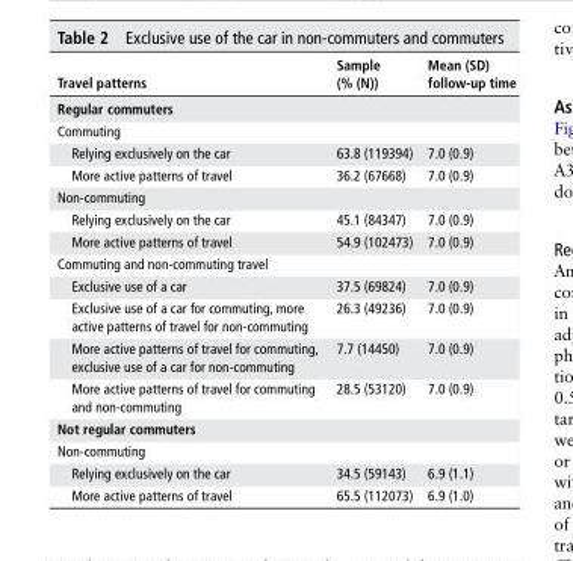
<table><thead><tr><td>Travel patterns</td><td>sample (% (n))</td><td>Mean (sd) follow-up time</td></tr></thead><tbody><tr><td colspan="3">regular commuters</td></tr><tr><td colspan="3">Commuting</td></tr><tr><td>Relying exclusively on the car</td><td>63.8 (119394)</td><td>7.0 (0.9)</td></tr><tr><td>More active patterns of travel</td><td>36.2 (67668)</td><td>7.0 (0.9)</td></tr><tr><td colspan="3">Non-commuting</td></tr><tr><td>Relying exclusively on the car</td><td>45.1 (84347)</td><td>7.0 (0.9)</td></tr><tr><td>More active patterns of travel</td><td>54.9 (102473)</td><td>7.0 (0.9)</td></tr><tr><td colspan="3">Commuting and non-commuting travel</td></tr><tr><td>Exclusive use of a car</td><td>37.5 (69824)</td><td>7.0 (0.9)</td></tr><tr><td>Exclusive use of a car for commuting, more active patterns of travel for non-commuting</td><td>26.3 (49236)</td><td>7.0 (0.9)</td></tr><tr><td>More active patterns of travel for commuting, exclusive use of a car for non-commuting</td><td>7.7 (14450)</td><td>7.0 (0.9)</td></tr><tr><td>More active patterns of travel for commuting and non-commuting</td><td>28.5 (53120)</td><td>7.0 (0.9)</td></tr><tr><td colspan="3">not regular commuters</td></tr><tr><td colspan="3">Non-commuting</td></tr><tr><td>Relying exclusively on the car</td><td>34.5 (59143)</td><td>6.9 (1.1)</td></tr><tr><td>More active patterns of travel</td><td>65.5 (112073)</td><td>6.9 (1.0)</td></tr></tbody></table>